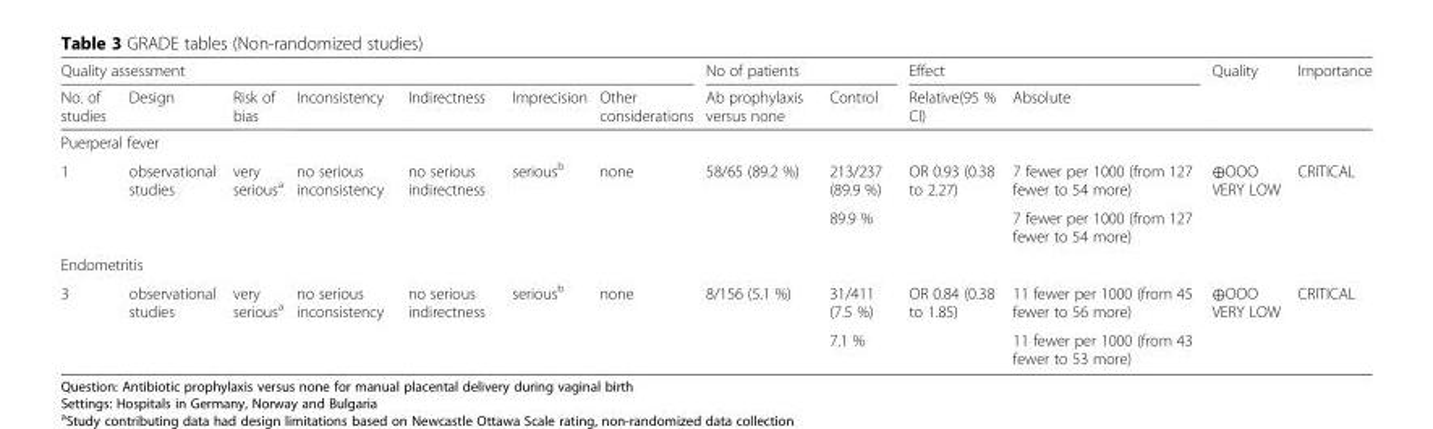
<table><thead><tr><td colspan="7">Quality assessment</td><td colspan="2">No of patients</td><td colspan="2">Effect</td><td rowspan="2">Quality</td><td rowspan="2">Importance</td></tr><tr><td>No. of studies</td><td>Design</td><td>Risk of bias</td><td>Inconsistency</td><td>Indirectness</td><td>Imprecision</td><td>Other considerations</td><td>Ab prophylaxis versus none</td><td>Control</td><td>Relative(95 % CI)</td><td>Absolute</td></tr></thead><tbody><tr><td colspan="13">Puerperal fever</td></tr><tr><td rowspan="2">1</td><td rowspan="2">observational studies</td><td rowspan="2">very serious<sup>a</sup></td><td rowspan="2">no serious inconsistency</td><td rowspan="2">no serious indirectness</td><td rowspan="2">serious<sup>b</sup></td><td rowspan="2">none</td><td>58/65 (89.2 %)</td><td>213/237 (89.9 %)</td><td rowspan="2">OR 0.93 (0.38 to 2.27)</td><td>7 fewer per 1000 (from 127 fewer to 54 more)</td><td rowspan="2">⊕ΟΟΟ VERY LOW</td><td rowspan="2">CRITICAL</td></tr><tr><td></td><td>89.9 %</td><td>7 fewer per 1000 (from 127 fewer to 54 more)</td></tr><tr><td colspan="13">Endometritis</td></tr><tr><td rowspan="2">3</td><td rowspan="2">observational studies</td><td rowspan="2">very serious<sup>a</sup></td><td rowspan="2">no serious inconsistency</td><td rowspan="2">no serious indirectness</td><td rowspan="2">serious<sup>b</sup></td><td rowspan="2">none</td><td>8/156 (5.1 %)</td><td>31/411 (7.5 %)</td><td rowspan="2">OR 0.84 (0.38 to 1.85)</td><td>11 fewer per 1000 (from 45 fewer to 56 more)</td><td rowspan="2">⊕ΟΟΟ VERY LOW</td><td rowspan="2">CRITICAL</td></tr><tr><td></td><td>7.1 %</td><td>11 fewer per 1000 (from 43 fewer to 53 more)</td></tr></tbody></table>